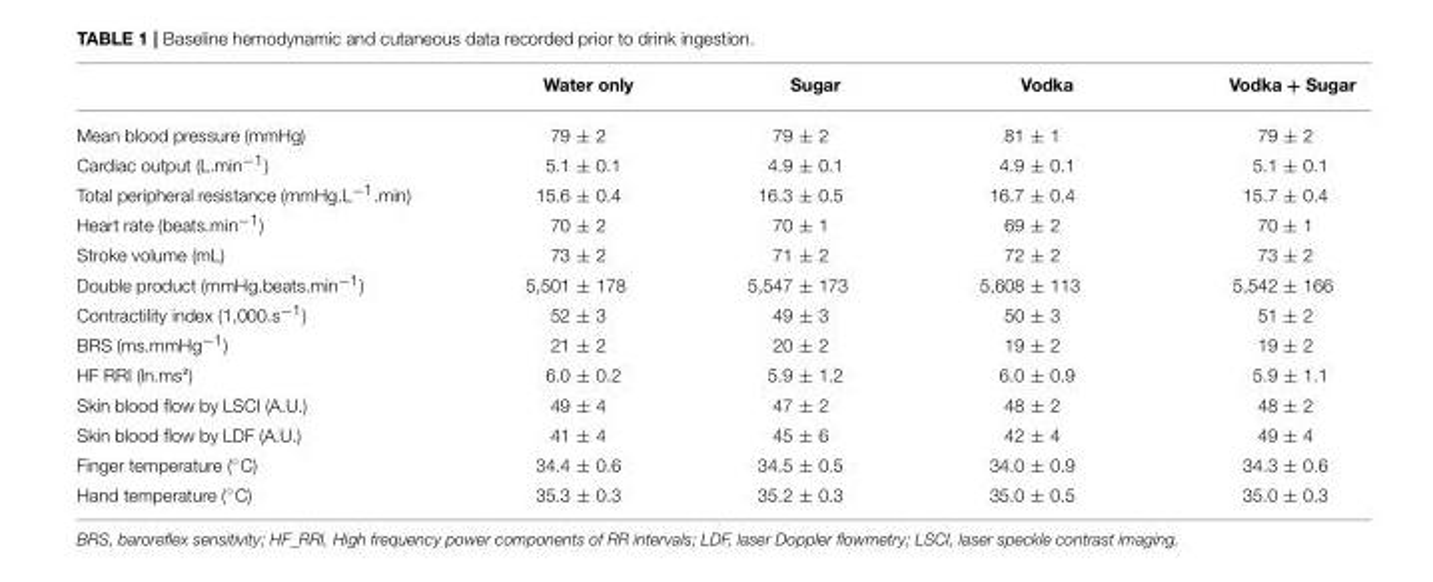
<table><thead><tr><td></td><td>Water only</td><td>Sugar</td><td>Vodka</td><td>Vodka + Sugar</td></tr></thead><tbody><tr><td>Mean blood pressure (mmHg)</td><td>79 ± 2</td><td>79 ± 2</td><td>81 ± 1</td><td>79 ± 2</td></tr><tr><td>Cardiac output (L.min<sup>−1</sup>)</td><td>5.1 ± 0.1</td><td>4.9 ± 0.1</td><td>4.9 ± 0.1</td><td>5.1 ± 0.1</td></tr><tr><td>Total peripheral resistance (mmHg.L<sup>−1</sup>.min)</td><td>15.6 ± 0.4</td><td>16.3 ± 0.5</td><td>16.7 ± 0.4</td><td>15.7 ± 0.4</td></tr><tr><td>Heart rate (beats.min<sup>−1</sup>)</td><td>70 ± 2</td><td>70 ± 1</td><td>69 ± 2</td><td>70 ± 1</td></tr><tr><td>Stroke volume (mL)</td><td>73 ± 2</td><td>71 ± 2</td><td>72 ± 2</td><td>73 ± 2</td></tr><tr><td>Double product (mmHg.beats.min<sup>−1</sup>)</td><td>5,501 ± 178</td><td>5,547 ± 173</td><td>5,608 ± 113</td><td>5,542 ± 166</td></tr><tr><td>Contractility index (1,000.s<sup>−1</sup>)</td><td>52 ± 3</td><td>49 ± 3</td><td>50 ± 3</td><td>51 ± 2</td></tr><tr><td>BRS (ms.mmHg<sup>−1</sup>)</td><td>21 ± 2</td><td>20 ± 2</td><td>19 ± 2</td><td>19 ± 2</td></tr><tr><td>HF RRI (ln.ms²)</td><td>6.0 ± 0.2</td><td>5.9 ± 1.2</td><td>6.0 ± 0.9</td><td>5.9 ± 1.1</td></tr><tr><td>Skin blood flow by LSCI (A.U.)</td><td>49 ± 4</td><td>47 ± 2</td><td>48 ± 2</td><td>48 ± 2</td></tr><tr><td>Skin blood flow by LDF (A.U.)</td><td>41 ± 4</td><td>45 ± 6</td><td>42 ± 4</td><td>49 ± 4</td></tr><tr><td>Finger temperature (◦C)</td><td>34.4 ± 0.6</td><td>34.5 ± 0.5</td><td>34.0 ± 0.9</td><td>34.3 ± 0.6</td></tr><tr><td>Hand temperature (◦C)</td><td>35.3 ± 0.3</td><td>35.2 ± 0.3</td><td>35.0 ± 0.5</td><td>35.0 ± 0.3</td></tr></tbody></table>